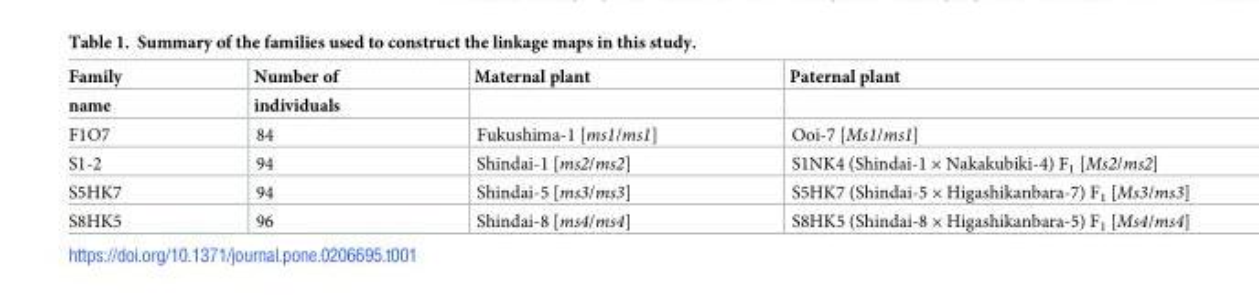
<table><thead><tr><td rowspan="2">Family name</td><td rowspan="2">Number of individuals</td><td rowspan="2">Maternal plant</td><td rowspan="2">Paternal plant</td></tr><tr></tr></thead><tbody><tr><td>F1O7</td><td>84</td><td>Fukushima-1 [ms1/ms1]</td><td>Ooi-7 [Ms1/ms1]</td></tr><tr><td>S1-2</td><td>94</td><td>Shindai-1 [ms2/ms2]</td><td>S1NK4 (Shindai-1 × Nakakubiki-4) F<sub>1</sub> [Ms2/ms2]</td></tr><tr><td>S5HK7</td><td>94</td><td>Shindai-5 [ms3/ms3]</td><td>S5HK7 (Shindai-5 × Higashikanbara-7) F<sub>1</sub> [Ms3/ms3]</td></tr><tr><td>S8HK5</td><td>96</td><td>Shindai-8 [ms4/ms4]</td><td>S8HK5 (Shindai-8 × Higashikanbara-5) F<sub>1</sub> [Ms4/ms4]</td></tr></tbody></table>